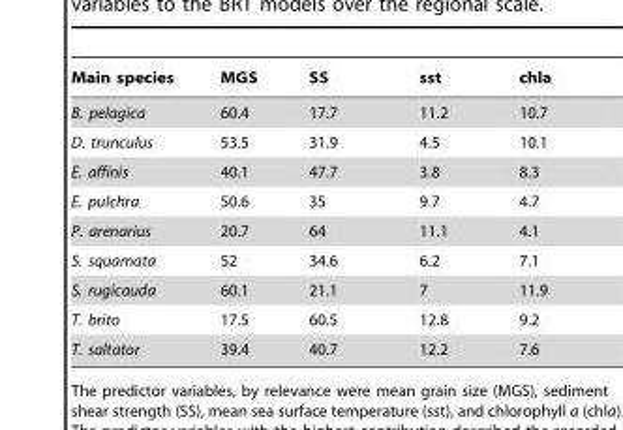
<table><thead><tr><td>Main species</td><td>MGS</td><td>SS</td><td>sst</td><td>chla</td></tr></thead><tbody><tr><td>B. pelagica</td><td>60.4</td><td>17.7</td><td>11.2</td><td>10.7</td></tr><tr><td>D. trunculus</td><td>53.5</td><td>31.9</td><td>4.5</td><td>10.1</td></tr><tr><td>E. affinis</td><td>40.1</td><td>47.7</td><td>3.8</td><td>8.3</td></tr><tr><td>E. pulchra</td><td>50.6</td><td>35</td><td>9.7</td><td>4.7</td></tr><tr><td>P. arenarius</td><td>20.7</td><td>64</td><td>11.1</td><td>4.1</td></tr><tr><td>S. squamata</td><td>52</td><td>34.6</td><td>6.2</td><td>7.1</td></tr><tr><td>S. rugicauda</td><td>60.1</td><td>21.1</td><td>7</td><td>11.9</td></tr><tr><td>T. brito</td><td>17.5</td><td>60.5</td><td>12.8</td><td>9.2</td></tr><tr><td>T. saltator</td><td>39.4</td><td>40.7</td><td>12.2</td><td>7.6</td></tr></tbody></table>